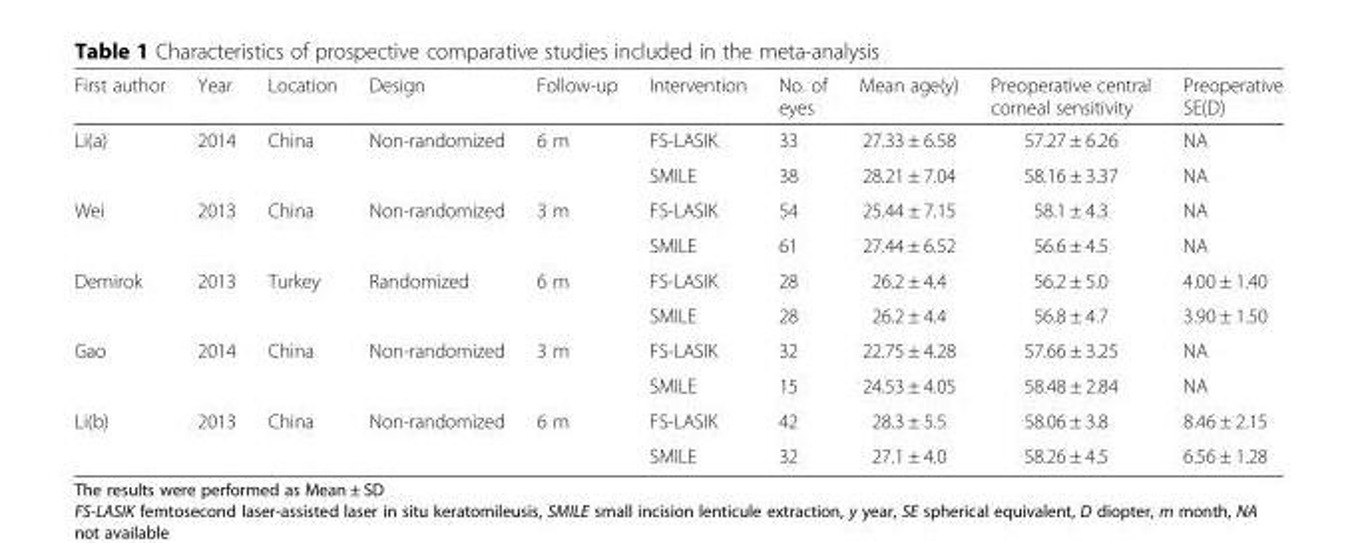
<table><thead><tr><td>First author</td><td>Year</td><td>Location</td><td>Design</td><td>Follow-up</td><td>Intervention</td><td>No. of eyes</td><td>Mean age(y)</td><td>Preoperative central corneal sensitivity</td><td>Preoperative SE(D)</td></tr></thead><tbody><tr><td rowspan="2">Li(a)</td><td>2014</td><td>China</td><td>Non-randomized</td><td>6 m</td><td>FS-LASIK</td><td>33</td><td>27.33 ± 6.58</td><td>57.27 ± 6.26</td><td>NA</td></tr><tr><td></td><td></td><td></td><td></td><td>SMILE</td><td>38</td><td>28.21 ± 7.04</td><td>58.16 ± 3.37</td><td>NA</td></tr><tr><td rowspan="2">Wei</td><td>2013</td><td>China</td><td>Non-randomized</td><td>3 m</td><td>FS-LASIK</td><td>54</td><td>25.44 ± 7.15</td><td>58.1 ± 4.3</td><td>NA</td></tr><tr><td></td><td></td><td></td><td></td><td>SMILE</td><td>61</td><td>27.44 ± 6.52</td><td>56.6 ± 4.5</td><td>NA</td></tr><tr><td rowspan="2">Demirok</td><td>2013</td><td>Turkey</td><td>Randomized</td><td>6 m</td><td>FS-LASIK</td><td>28</td><td>26.2 ± 4.4</td><td>56.2 ± 5.0</td><td>4.00 ± 1.40</td></tr><tr><td></td><td></td><td></td><td></td><td>SMILE</td><td>28</td><td>26.2 ± 4.4</td><td>56.8 ± 4.7</td><td>3.90 ± 1.50</td></tr><tr><td rowspan="2">Gao</td><td>2014</td><td>China</td><td>Non-randomized</td><td>3 m</td><td>FS-LASIK</td><td>32</td><td>22.75 ± 4.28</td><td>57.66 ± 3.25</td><td>NA</td></tr><tr><td></td><td></td><td></td><td></td><td>SMILE</td><td>15</td><td>24.53 ± 4.05</td><td>58.48 ± 2.84</td><td>NA</td></tr><tr><td rowspan="2">Li(b)</td><td>2013</td><td>China</td><td>Non-randomized</td><td>6 m</td><td>FS-LASIK</td><td>42</td><td>28.3 ± 5.5</td><td>58.06 ± 3.8</td><td>8.46 ± 2.15</td></tr><tr><td></td><td></td><td></td><td></td><td>SMILE</td><td>32</td><td>27.1 ± 4.0</td><td>58.26 ± 4.5</td><td>6.56 ± 1.28</td></tr></tbody></table>